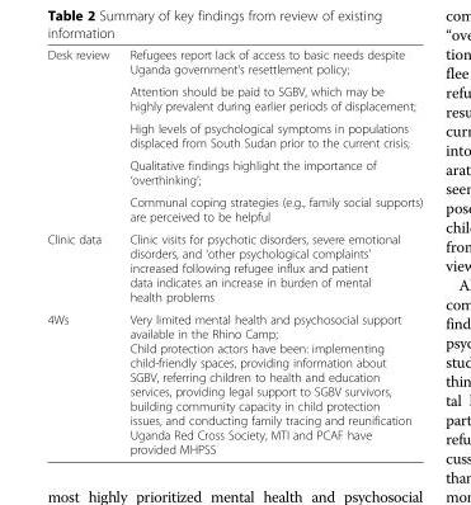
<table><tbody><tr><td rowspan="5">Desk review</td><td>Refugees report lack of access to basic needs despite Uganda government&#x27;s resettlement policy;</td></tr><tr><td>Attention should be paid to SGBV, which may be highly prevalent during earlier periods of displacement;</td></tr><tr><td>High levels of psychological symptoms in populations displaced from South Sudan prior to the current crisis;</td></tr><tr><td>Qualitative findings highlight the importance of ‘overthinking’;</td></tr><tr><td>Communal coping strategies (e.g., family social supports) are perceived to be helpful</td></tr><tr><td>Clinic data</td><td>Clinic visits for psychotic disorders, severe emotional disorders, and ‘other psychological complaints’ increased following refugee influx and patient data indicates an increase in burden of mental health problems</td></tr><tr><td>4Ws</td><td>Very limited mental health and psychosocial support available in the Rhino Camp; Child protection actors have been: implementing child-friendly spaces, providing information about SGBV, referring children to health and education services, providing legal support to SGBV survivors, building community capacity in child protection issues, and conducting family tracing and reunification Uganda Red Cross Society, MTI and PCAF have provided MHPSS</td></tr></tbody></table>